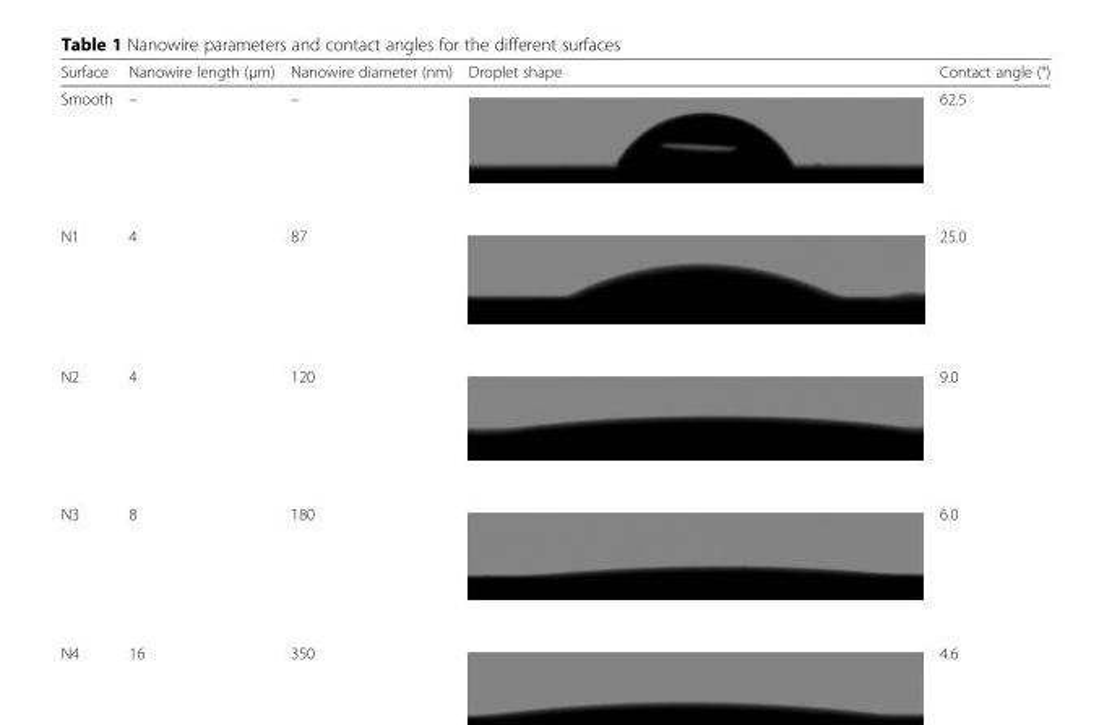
<table><thead><tr><td>Surface</td><td>Nanowire length (μm)</td><td>Nanowire diameter (nm)</td><td>Droplet shape</td><td>Contact angle (°)</td></tr></thead><tbody><tr><td>Smooth</td><td>–</td><td>–</td><td></td><td>62.5</td></tr><tr><td>N1</td><td>4</td><td>87</td><td></td><td>25.0</td></tr><tr><td>N2</td><td>4</td><td>120</td><td></td><td>9.0</td></tr><tr><td>N3</td><td>8</td><td>180</td><td></td><td>6.0</td></tr><tr><td>N4</td><td>16</td><td>350</td><td></td><td>4.6</td></tr></tbody></table>